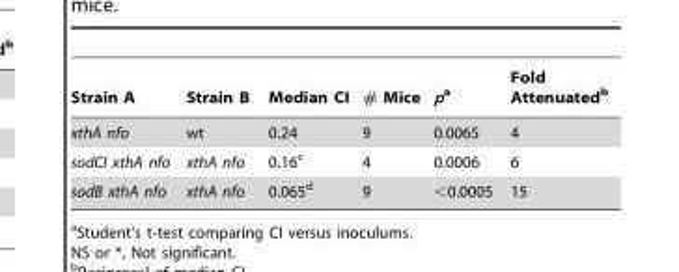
<table><thead><tr><td>Strain A</td><td>Strain B</td><td>Median CI</td><td># Mice</td><td>pa</td><td>Fold Attenuated<sup>b</sup></td></tr></thead><tbody><tr><td>xthA nfo</td><td>wt</td><td>0.24</td><td>9</td><td>0.0065</td><td>4</td></tr><tr><td>sodCI xthA nfo</td><td>xthA nfo</td><td>0.16<sup>c</sup></td><td>4</td><td>0.0006</td><td>6</td></tr><tr><td>sodB xthA nfo</td><td>xthA nfo</td><td>0.065<sup>d</sup></td><td>9</td><td>&lt;0.0005</td><td>15</td></tr></tbody></table>